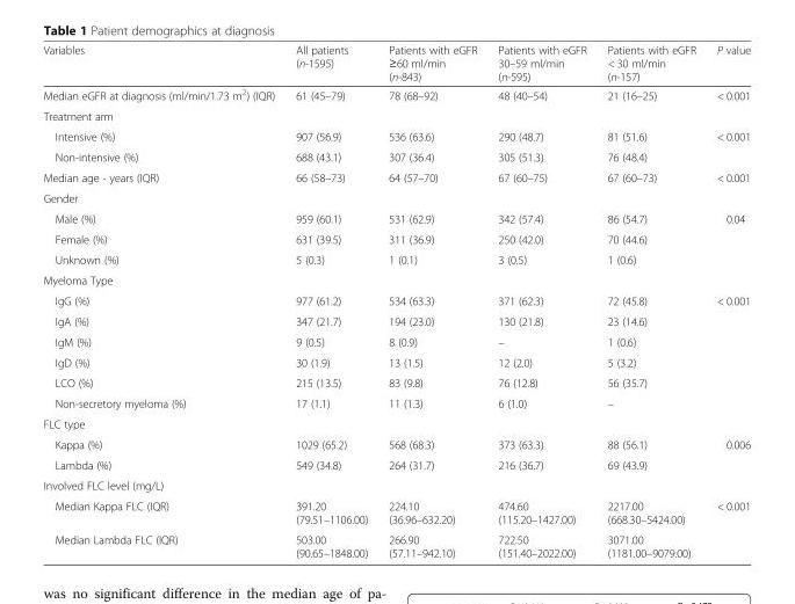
<table><thead><tr><td>Variables</td><td>All patients (n-1595)</td><td>Patients with eGFR ≥60 ml/min (n-843)</td><td>Patients with eGFR 30–59 ml/min (n-595)</td><td>Patients with eGFR &lt; 30 ml/min (n-157)</td><td>P value</td></tr></thead><tbody><tr><td>Median eGFR at diagnosis (ml/min/1.73 m<sup>2</sup>) (IQR)</td><td>61 (45–79)</td><td>78 (68–92)</td><td>48 (40–54)</td><td>21 (16–25)</td><td>&lt; 0.001</td></tr><tr><td colspan="6">Treatment arm</td></tr><tr><td>Intensive (%)</td><td>907 (56.9)</td><td>536 (63.6)</td><td>290 (48.7)</td><td>81 (51.6)</td><td rowspan="2">&lt; 0.001</td></tr><tr><td>Non-intensive (%)</td><td>688 (43.1)</td><td>307 (36.4)</td><td>305 (51.3)</td><td>76 (48.4)</td></tr><tr><td>Median age - years (IQR)</td><td>66 (58–73)</td><td>64 (57–70)</td><td>67 (60–75)</td><td>67 (60–73)</td><td>&lt; 0.001</td></tr><tr><td colspan="6">Gender</td></tr><tr><td>Male (%)</td><td>959 (60.1)</td><td>531 (62.9)</td><td>342 (57.4)</td><td>86 (54.7)</td><td rowspan="2">0.04</td></tr><tr><td>Female (%)</td><td>631 (39.5)</td><td>311 (36.9)</td><td>250 (42.0)</td><td>70 (44.6)</td></tr><tr><td>Unknown (%)</td><td>5 (0.3)</td><td>1 (0.1)</td><td>3 (0.5)</td><td>1 (0.6)</td><td></td></tr><tr><td colspan="6">Myeloma Type</td></tr><tr><td>IgG (%)</td><td>977 (61.2)</td><td>534 (63.3)</td><td>371 (62.3)</td><td>72 (45.8)</td><td rowspan="6">&lt; 0.001</td></tr><tr><td>IgA (%)</td><td>347 (21.7)</td><td>194 (23.0)</td><td>130 (21.8)</td><td>23 (14.6)</td></tr><tr><td>IgM (%)</td><td>9 (0.5)</td><td>8 (0.9)</td><td>–</td><td>1 (0.6)</td></tr><tr><td>IgD (%)</td><td>30 (1.9)</td><td>13 (1.5)</td><td>12 (2.0)</td><td>5 (3.2)</td></tr><tr><td>LCO (%)</td><td>215 (13.5)</td><td>83 (9.8)</td><td>76 (12.8)</td><td>56 (35.7)</td></tr><tr><td>Non-secretory myeloma (%)</td><td>17 (1.1)</td><td>11 (1.3)</td><td>6 (1.0)</td><td>–</td></tr><tr><td colspan="6">FLC type</td></tr><tr><td>Kappa (%)</td><td>1029 (65.2)</td><td>568 (68.3)</td><td>373 (63.3)</td><td>88 (56.1)</td><td rowspan="2">0.006</td></tr><tr><td>Lambda (%)</td><td>549 (34.8)</td><td>264 (31.7)</td><td>216 (36.7)</td><td>69 (43.9)</td></tr><tr><td colspan="6">Involved FLC level (mg/L)</td></tr><tr><td>Median Kappa FLC (IQR)</td><td>391.20 (79.51–1106.00)</td><td>224.10 (36.96–632.20)</td><td>474.60 (115.20–1427.00)</td><td>2217.00 (668.30–5424.00)</td><td rowspan="2">&lt; 0.001</td></tr><tr><td>Median Lambda FLC (IQR)</td><td>503.00 (90.65–1848.00)</td><td>266.90 (57.11–942.10)</td><td>722.50 (151.40–2022.00)</td><td>3071.00 (1181.00–9079.00)</td></tr></tbody></table>